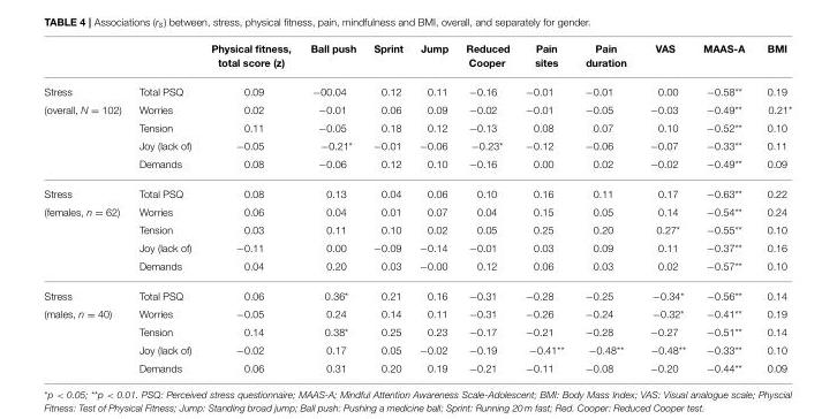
<table><thead><tr><td></td><td></td><td>Physical fitness, total score (z)</td><td>Ball push</td><td>Sprint</td><td>Jump</td><td>Reduced Cooper</td><td>Pain sites</td><td>Pain duration</td><td>VAS</td><td>MAAS-A</td><td>BMI</td></tr></thead><tbody><tr><td>Stress</td><td>Total PSQ</td><td>0.09</td><td>−00.04</td><td>0.12</td><td>0.11</td><td>−0.16</td><td>−0.01</td><td>−0.01</td><td>0.00</td><td>−0.58**</td><td>0.19</td></tr><tr><td rowspan="4">(overall, N = 102)</td><td>Worries</td><td>0.02</td><td>−0.01</td><td>0.06</td><td>0.09</td><td>−0.02</td><td>−0.01</td><td>−0.05</td><td>−0.03</td><td>−0.49**</td><td>0.21*</td></tr><tr><td>Tension</td><td>0.11</td><td>−0.05</td><td>0.18</td><td>0.12</td><td>−0.13</td><td>0.08</td><td>0.07</td><td>0.10</td><td>−0.52**</td><td>0.10</td></tr><tr><td>Joy (lack of)</td><td>−0.05</td><td>−0.21*</td><td>−0.01</td><td>−0.06</td><td>−0.23*</td><td>−0.12</td><td>−0.06</td><td>−0.07</td><td>−0.33**</td><td>0.11</td></tr><tr><td>Demands</td><td>0.08</td><td>−0.06</td><td>0.12</td><td>0.10</td><td>−0.16</td><td>0.00</td><td>0.02</td><td>−0.02</td><td>−0.49**</td><td>0.09</td></tr><tr><td>Stress</td><td>Total PSQ</td><td>0.08</td><td>0.13</td><td>0.04</td><td>0.06</td><td>0.10</td><td>0.16</td><td>0.11</td><td>0.17</td><td>−0.63**</td><td>0.22</td></tr><tr><td rowspan="4">(females, n = 62)</td><td>Worries</td><td>0.06</td><td>0.04</td><td>0.01</td><td>0.07</td><td>0.04</td><td>0.15</td><td>0.05</td><td>0.14</td><td>−0.54**</td><td>0.24</td></tr><tr><td>Tension</td><td>0.03</td><td>0.11</td><td>0.10</td><td>0.02</td><td>0.05</td><td>0.25</td><td>0.20</td><td>0.27*</td><td>−0.55**</td><td>0.10</td></tr><tr><td>Joy (lack of)</td><td>−0.11</td><td>0.00</td><td>−0.09</td><td>−0.14</td><td>−0.01</td><td>0.03</td><td>0.09</td><td>0.11</td><td>−0.37**</td><td>0.16</td></tr><tr><td>Demands</td><td>0.04</td><td>0.20</td><td>0.03</td><td>−0.00</td><td>0.12</td><td>0.06</td><td>0.03</td><td>0.02</td><td>−0.57**</td><td>0.10</td></tr><tr><td>Stress</td><td>Total PSQ</td><td>0.06</td><td>0.36*</td><td>0.21</td><td>0.16</td><td>−0.31</td><td>−0.28</td><td>−0.25</td><td>−0.34*</td><td>−0.56**</td><td>0.14</td></tr><tr><td rowspan="4">(males, n = 40)</td><td>Worries</td><td>−0.05</td><td>0.24</td><td>0.14</td><td>0.11</td><td>−0.31</td><td>−0.26</td><td>−0.24</td><td>−0.32*</td><td>−0.41**</td><td>0.19</td></tr><tr><td>Tension</td><td>0.14</td><td>0.38*</td><td>0.25</td><td>0.23</td><td>−0.17</td><td>−0.21</td><td>−0.28</td><td>−0.27</td><td>−0.51**</td><td>0.14</td></tr><tr><td>Joy (lack of)</td><td>−0.02</td><td>0.17</td><td>0.05</td><td>−0.02</td><td>−0.19</td><td>−0.41**</td><td>−0.48**</td><td>−0.48**</td><td>−0.33**</td><td>0.10</td></tr><tr><td>Demands</td><td>0.06</td><td>0.31</td><td>0.20</td><td>0.19</td><td>−0.21</td><td>−0.11</td><td>−0.08</td><td>−0.20</td><td>−0.44**</td><td>0.09</td></tr></tbody></table>